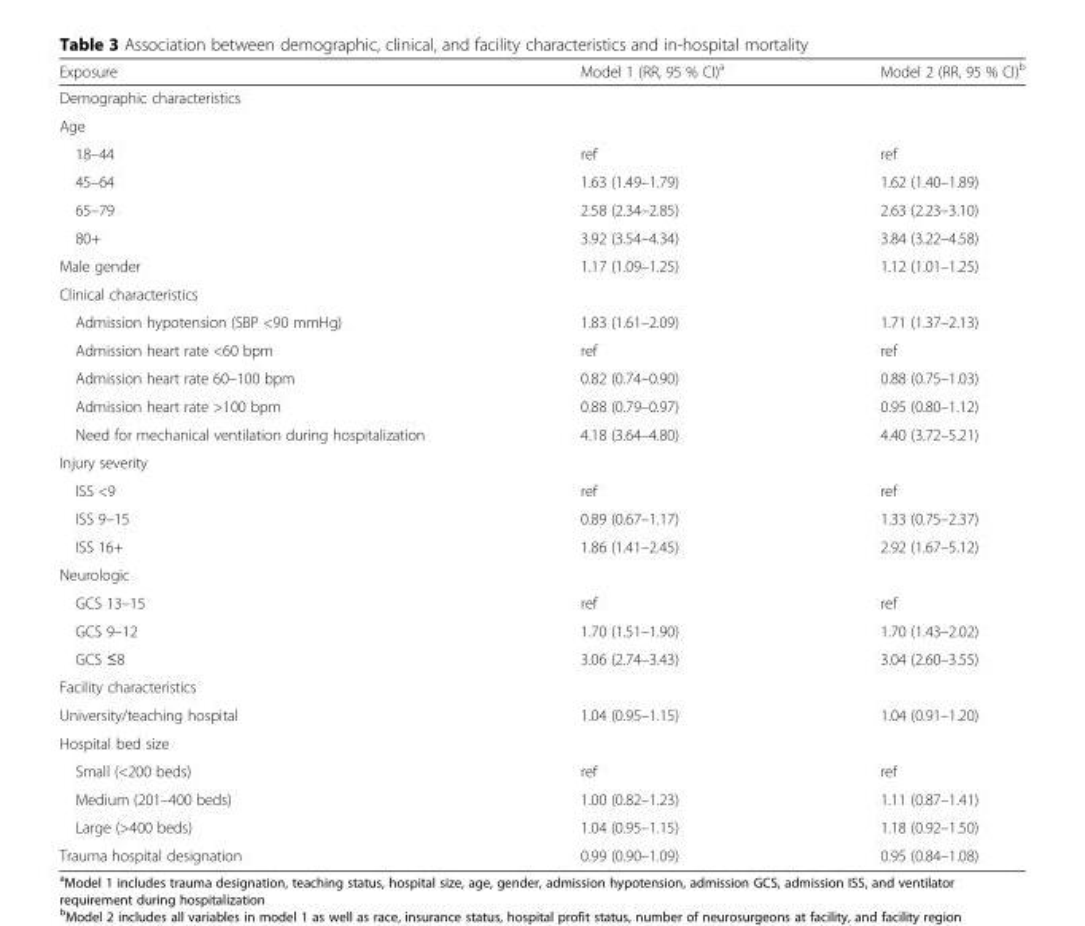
<table><thead><tr><td>Exposure</td><td>Model 1 (RR, 95 % CI)<sup>a</sup></td><td>Model 2 (RR, 95 % CI)<sup>b</sup></td></tr></thead><tbody><tr><td colspan="3">Demographic characteristics</td></tr><tr><td colspan="3">Age</td></tr><tr><td>18–44</td><td>ref</td><td>ref</td></tr><tr><td>45–64</td><td>1.63 (1.49–1.79)</td><td>1.62 (1.40–1.89)</td></tr><tr><td>65–79</td><td>2.58 (2.34–2.85)</td><td>2.63 (2.23–3.10)</td></tr><tr><td>80+</td><td>3.92 (3.54–4.34)</td><td>3.84 (3.22–4.58)</td></tr><tr><td>Male gender</td><td>1.17 (1.09–1.25)</td><td>1.12 (1.01–1.25)</td></tr><tr><td colspan="3">Clinical characteristics</td></tr><tr><td>Admission hypotension (SBP &lt;90 mmHg)</td><td>1.83 (1.61–2.09)</td><td>1.71 (1.37–2.13)</td></tr><tr><td>Admission heart rate &lt;60 bpm</td><td>ref</td><td>ref</td></tr><tr><td>Admission heart rate 60–100 bpm</td><td>0.82 (0.74–0.90)</td><td>0.88 (0.75–1.03)</td></tr><tr><td>Admission heart rate &gt;100 bpm</td><td>0.88 (0.79–0.97)</td><td>0.95 (0.80–1.12)</td></tr><tr><td>Need for mechanical ventilation during hospitalization</td><td>4.18 (3.64–4.80)</td><td>4.40 (3.72–5.21)</td></tr><tr><td colspan="3">Injury severity</td></tr><tr><td>ISS &lt;9</td><td>ref</td><td>ref</td></tr><tr><td>ISS 9–15</td><td>0.89 (0.67–1.17)</td><td>1.33 (0.75–2.37)</td></tr><tr><td>ISS 16+</td><td>1.86 (1.41–2.45)</td><td>2.92 (1.67–5.12)</td></tr><tr><td colspan="3">Neurologic</td></tr><tr><td>GCS 13–15</td><td>ref</td><td>ref</td></tr><tr><td>GCS 9–12</td><td>1.70 (1.51–1.90)</td><td>1.70 (1.43–2.02)</td></tr><tr><td>GCS ≤8</td><td>3.06 (2.74–3.43)</td><td>3.04 (2.60–3.55)</td></tr><tr><td colspan="3">Facility characteristics</td></tr><tr><td>University/teaching hospital</td><td>1.04 (0.95–1.15)</td><td>1.04 (0.91–1.20)</td></tr><tr><td colspan="3">Hospital bed size</td></tr><tr><td>Small (&lt;200 beds)</td><td>ref</td><td>ref</td></tr><tr><td>Medium (201–400 beds)</td><td>1.00 (0.82–1.23)</td><td>1.11 (0.87–1.41)</td></tr><tr><td>Large (&gt;400 beds)</td><td>1.04 (0.95–1.15)</td><td>1.18 (0.92–1.50)</td></tr><tr><td>Trauma hospital designation</td><td>0.99 (0.90–1.09)</td><td>0.95 (0.84–1.08)</td></tr></tbody></table>